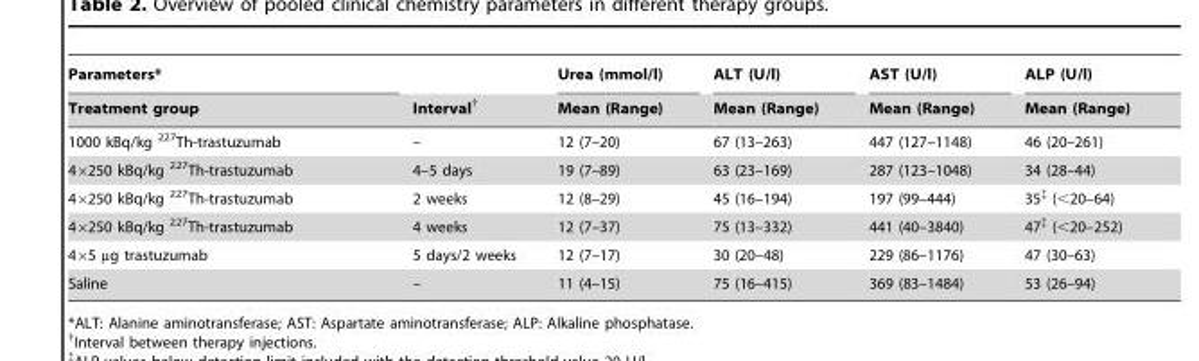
<table><thead><tr><td rowspan="2">Parameters* Treatment group</td><td rowspan="2">Interval†</td><td rowspan="2">Urea (mmol/l) Mean (Range)</td><td rowspan="2">ALT (U/l) Mean (Range)</td><td rowspan="2">AST (U/l) Mean (Range)</td><td rowspan="2">ALP (U/l) Mean (Range)</td></tr><tr></tr></thead><tbody><tr><td>1000 kBq/kg <sup>227</sup>Th-trastuzumab</td><td>–</td><td>12 (7–20)</td><td>67 (13–263)</td><td>447 (127–1148)</td><td>46 (20–261)</td></tr><tr><td>4×250 kBq/kg <sup>227</sup>Th-trastuzumab</td><td>4–5 days</td><td>19 (7–89)</td><td>63 (23–169)</td><td>287 (123–1048)</td><td>34 (28–44)</td></tr><tr><td>4×250 kBq/kg <sup>227</sup>Th-trastuzumab</td><td>2 weeks</td><td>12 (8–29)</td><td>45 (16–194)</td><td>197 (99–444)</td><td>35‡ (&lt;20–64)</td></tr><tr><td>4×250 kBq/kg <sup>227</sup>Th-trastuzumab</td><td>4 weeks</td><td>12 (7–37)</td><td>75 (13–332)</td><td>441 (40–3840)</td><td>47‡ (&lt;20–252)</td></tr><tr><td>4×5 µg trastuzumab</td><td>5 days/2 weeks</td><td>12 (7–17)</td><td>30 (20–48)</td><td>229 (86–1176)</td><td>47 (30–63)</td></tr><tr><td>Saline</td><td>–</td><td>11 (4–15)</td><td>75 (16–415)</td><td>369 (83–1484)</td><td>53 (26–94)</td></tr></tbody></table>